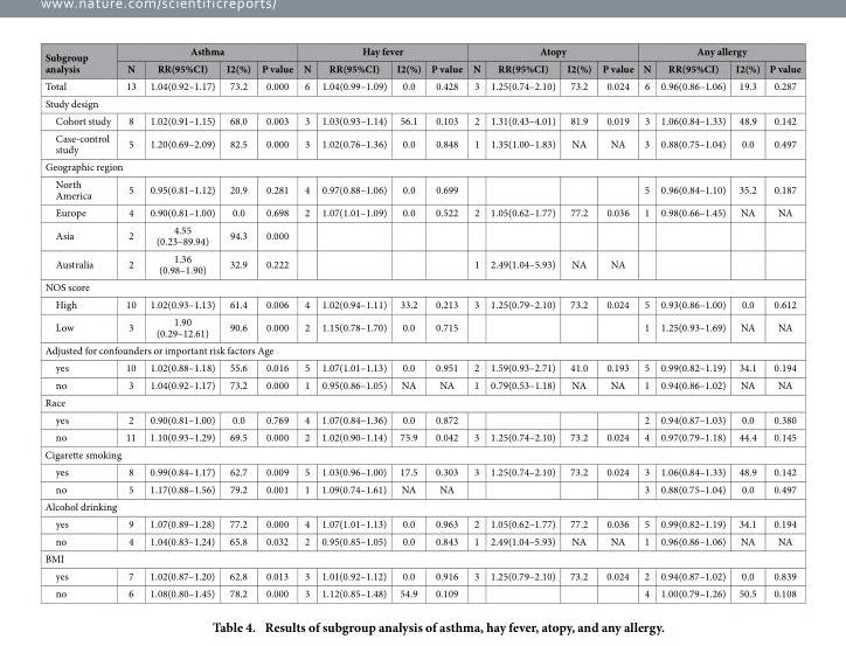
<table><thead><tr><td rowspan="2">Subgroup analysis</td><td colspan="4">Asthma</td><td colspan="4">Hay fever</td><td colspan="4">Atopy</td><td colspan="4">Any allergy</td></tr><tr><td>N</td><td>RR(95%CI)</td><td>I2(%)</td><td>P value</td><td>N</td><td>RR(95%CI)</td><td>I2(%)</td><td>P value</td><td>N</td><td>RR(95%CI)</td><td>I2(%)</td><td>P value</td><td>N</td><td>RR(95%CI)</td><td>I2(%)</td><td>P value</td></tr></thead><tbody><tr><td>Total</td><td>13</td><td>1.04(0.92–1.17)</td><td>73.2</td><td>0.000</td><td>6</td><td>1.04(0.99–1.09)</td><td>0.0</td><td>0.428</td><td>3</td><td>1.25(0.74–2.10)</td><td>73.2</td><td>0.024</td><td>6</td><td>0.96(0.86–1.06)</td><td>19.3</td><td>0.287</td></tr><tr><td colspan="17">Study design</td></tr><tr><td>Cohort study</td><td>8</td><td>1.02(0.91–1.15)</td><td>68.0</td><td>0.003</td><td>3</td><td>1.03(0.93–1.14)</td><td>56.1</td><td>0.103</td><td>2</td><td>1.31(0.43–4.01)</td><td>81.9</td><td>0.019</td><td>3</td><td>1.06(0.84–1.33)</td><td>48.9</td><td>0.142</td></tr><tr><td>Case-control study</td><td>5</td><td>1.20(0.69–2.09)</td><td>82.5</td><td>0.000</td><td>3</td><td>1.02(0.76–1.36)</td><td>0.0</td><td>0.848</td><td>1</td><td>1.35(1.00–1.83)</td><td>NA</td><td>NA</td><td>3</td><td>0.88(0.75–1.04)</td><td>0.0</td><td>0.497</td></tr><tr><td colspan="17">Geographic region</td></tr><tr><td>North America</td><td>5</td><td>0.95(0.81–1.12)</td><td>20.9</td><td>0.281</td><td>4</td><td>0.97(0.88–1.06)</td><td>0.0</td><td>0.699</td><td></td><td></td><td></td><td></td><td>5</td><td>0.96(0.84–1.10)</td><td>35.2</td><td>0.187</td></tr><tr><td>Europe</td><td>4</td><td>0.90(0.81–1.00)</td><td>0.0</td><td>0.698</td><td>2</td><td>1.07(1.01–1.09)</td><td>0.0</td><td>0.522</td><td>2</td><td>1.05(0.62–1.77)</td><td>77.2</td><td>0.036</td><td>1</td><td>0.98(0.66–1.45)</td><td>NA</td><td>NA</td></tr><tr><td>Asia</td><td>2</td><td>4.55 (0.23–89.94)</td><td>94.3</td><td>0.000</td><td></td><td></td><td></td><td></td><td></td><td></td><td></td><td></td><td></td><td></td><td></td><td></td></tr><tr><td>Australia</td><td>2</td><td>1.36 (0.98–1.90)</td><td>32.9</td><td>0.222</td><td></td><td></td><td></td><td></td><td>1</td><td>2.49(1.04–5.93)</td><td>NA</td><td>NA</td><td></td><td></td><td></td><td></td></tr><tr><td colspan="17">NOS score</td></tr><tr><td>High</td><td>10</td><td>1.02(0.93–1.13)</td><td>61.4</td><td>0.006</td><td>4</td><td>1.02(0.94–1.11)</td><td>33.2</td><td>0.213</td><td>3</td><td>1.25(0.79–2.10)</td><td>73.2</td><td>0.024</td><td>5</td><td>0.93(0.86–1.00)</td><td>0.0</td><td>0.612</td></tr><tr><td>Low</td><td>3</td><td>1.90 (0.29–12.61)</td><td>90.6</td><td>0.000</td><td>2</td><td>1.15(0.78–1.70)</td><td>0.0</td><td>0.715</td><td></td><td></td><td></td><td></td><td>1</td><td>1.25(0.93–1.69)</td><td>NA</td><td>NA</td></tr><tr><td colspan="17">Adjusted for confounders or important risk factors Age</td></tr><tr><td>yes</td><td>10</td><td>1.02(0.88–1.18)</td><td>55.6</td><td>0.016</td><td>5</td><td>1.07(1.01–1.13)</td><td>0.0</td><td>0.951</td><td>2</td><td>1.59(0.93–2.71)</td><td>41.0</td><td>0.193</td><td>5</td><td>0.99(0.82–1.19)</td><td>34.1</td><td>0.194</td></tr><tr><td>no</td><td>3</td><td>1.04(0.92–1.17)</td><td>73.2</td><td>0.000</td><td>1</td><td>0.95(0.86–1.05)</td><td>NA</td><td>NA</td><td>1</td><td>0.79(0.53–1.18)</td><td>NA</td><td>NA</td><td>1</td><td>0.94(0.86–1.02)</td><td>NA</td><td>NA</td></tr><tr><td colspan="17">Race</td></tr><tr><td>yes</td><td>2</td><td>0.90(0.81–1.00)</td><td>0.0</td><td>0.769</td><td>4</td><td>1.07(0.84–1.36)</td><td>0.0</td><td>0.872</td><td></td><td></td><td></td><td></td><td>2</td><td>0.94(0.87–1.03)</td><td>0.0</td><td>0.380</td></tr><tr><td>no</td><td>11</td><td>1.10(0.93–1.29)</td><td>69.5</td><td>0.000</td><td>2</td><td>1.02(0.90–1.14)</td><td>75.9</td><td>0.042</td><td>3</td><td>1.25(0.74–2.10)</td><td>73.2</td><td>0.024</td><td>4</td><td>0.97(0.79–1.18)</td><td>44.4</td><td>0.145</td></tr><tr><td colspan="17">Cigarette smoking</td></tr><tr><td>yes</td><td>8</td><td>0.99(0.84–1.17)</td><td>62.7</td><td>0.009</td><td>5</td><td>1.03(0.96–1.00)</td><td>17.5</td><td>0.303</td><td>3</td><td>1.25(0.74–2.10)</td><td>73.2</td><td>0.024</td><td>3</td><td>1.06(0.84–1.33)</td><td>48.9</td><td>0.142</td></tr><tr><td>no</td><td>5</td><td>1.17(0.88–1.56)</td><td>79.2</td><td>0.001</td><td>1</td><td>1.09(0.74–1.61)</td><td>NA</td><td>NA</td><td></td><td></td><td></td><td></td><td>3</td><td>0.88(0.75–1.04)</td><td>0.0</td><td>0.497</td></tr><tr><td colspan="17">Alcohol drinking</td></tr><tr><td>yes</td><td>9</td><td>1.07(0.89–1.28)</td><td>77.2</td><td>0.000</td><td>4</td><td>1.07(1.01–1.13)</td><td>0.0</td><td>0.963</td><td>2</td><td>1.05(0.62–1.77)</td><td>77.2</td><td>0.036</td><td>5</td><td>0.99(0.82–1.19)</td><td>34.1</td><td>0.194</td></tr><tr><td>no</td><td>4</td><td>1.04(0.83–1.24)</td><td>65.8</td><td>0.032</td><td>2</td><td>0.95(0.85–1.05)</td><td>0.0</td><td>0.843</td><td>1</td><td>2.49(1.04–5.93)</td><td>NA</td><td>NA</td><td>1</td><td>0.96(0.86–1.06)</td><td>NA</td><td>NA</td></tr><tr><td colspan="17">BMI</td></tr><tr><td>yes</td><td>7</td><td>1.02(0.87–1.20)</td><td>62.8</td><td>0.013</td><td>3</td><td>1.01(0.92–1.12)</td><td>0.0</td><td>0.916</td><td>3</td><td>1.25(0.79–2.10)</td><td>73.2</td><td>0.024</td><td>2</td><td>0.94(0.87–1.02)</td><td>0.0</td><td>0.839</td></tr><tr><td>no</td><td>6</td><td>1.08(0.80–1.45)</td><td>78.2</td><td>0.000</td><td>3</td><td>1.12(0.85–1.48)</td><td>54.9</td><td>0.109</td><td></td><td></td><td></td><td></td><td>4</td><td>1.00(0.79–1.26)</td><td>50.5</td><td>0.108</td></tr></tbody></table>